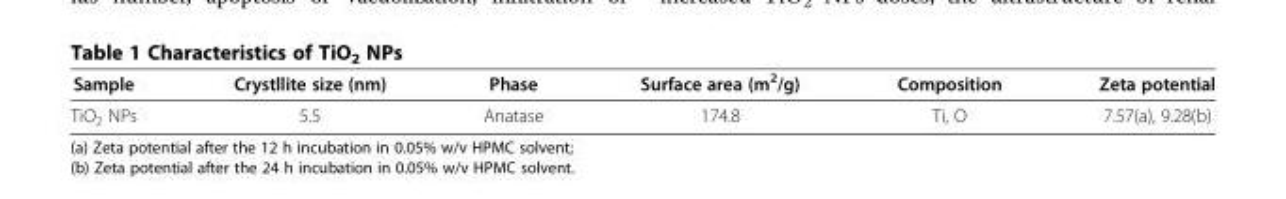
<table><thead><tr><td>Sample</td><td>Crystllite size (nm)</td><td>Phase</td><td>Surface area (m2/g)</td><td>Composition</td><td>Zeta potential</td></tr></thead><tbody><tr><td>TiO2 NPs</td><td>5.5</td><td>Anatase</td><td>174.8</td><td>Ti, O</td><td>7.57(a), 9.28(b)</td></tr></tbody></table>